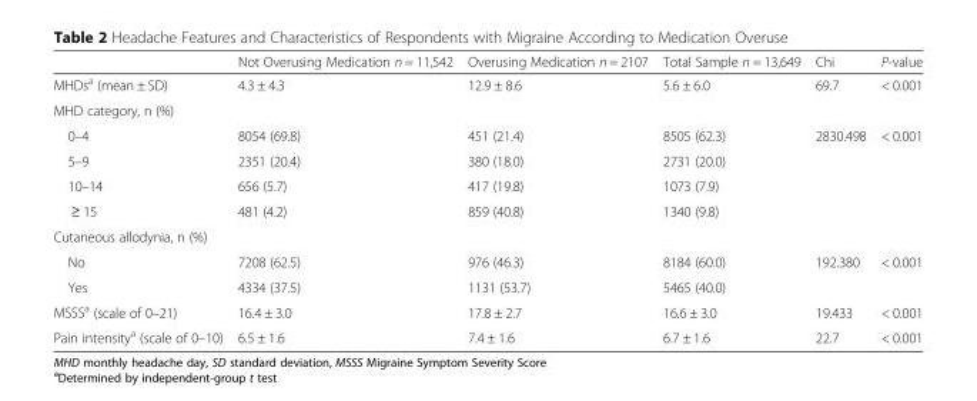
<table><thead><tr><td></td><td>Not Overusing Medication n = 11,542</td><td>Overusing Medication n = 2107</td><td>Total Sample n = 13,649</td><td>Chi</td><td>P-value</td></tr></thead><tbody><tr><td>MHDs<sup>a</sup> (mean ± SD)</td><td>4.3 ± 4.3</td><td>12.9 ± 8.6</td><td>5.6 ± 6.0</td><td>69.7</td><td>&lt; 0.001</td></tr><tr><td colspan="6">MHD category, n (%)</td></tr><tr><td>0–4</td><td>8054 (69.8)</td><td>451 (21.4)</td><td>8505 (62.3)</td><td>2830.498</td><td>&lt; 0.001</td></tr><tr><td>5–9</td><td>2351 (20.4)</td><td>380 (18.0)</td><td>2731 (20.0)</td><td></td><td></td></tr><tr><td>10–14</td><td>656 (5.7)</td><td>417 (19.8)</td><td>1073 (7.9)</td><td></td><td></td></tr><tr><td>≥ 15</td><td>481 (4.2)</td><td>859 (40.8)</td><td>1340 (9.8)</td><td></td><td></td></tr><tr><td colspan="6">Cutaneous allodynia, n (%)</td></tr><tr><td>No</td><td>7208 (62.5)</td><td>976 (46.3)</td><td>8184 (60.0)</td><td>192.380</td><td>&lt; 0.001</td></tr><tr><td>Yes</td><td>4334 (37.5)</td><td>1131 (53.7)</td><td>5465 (40.0)</td><td></td><td></td></tr><tr><td>MSSS<sup>a</sup> (scale of 0–21)</td><td>16.4 ± 3.0</td><td>17.8 ± 2.7</td><td>16.6 ± 3.0</td><td>19.433</td><td>&lt; 0.001</td></tr><tr><td>Pain intensity<sup>a</sup> (scale of 0–10)</td><td>6.5 ± 1.6</td><td>7.4 ± 1.6</td><td>6.7 ± 1.6</td><td>22.7</td><td>&lt; 0.001</td></tr></tbody></table>